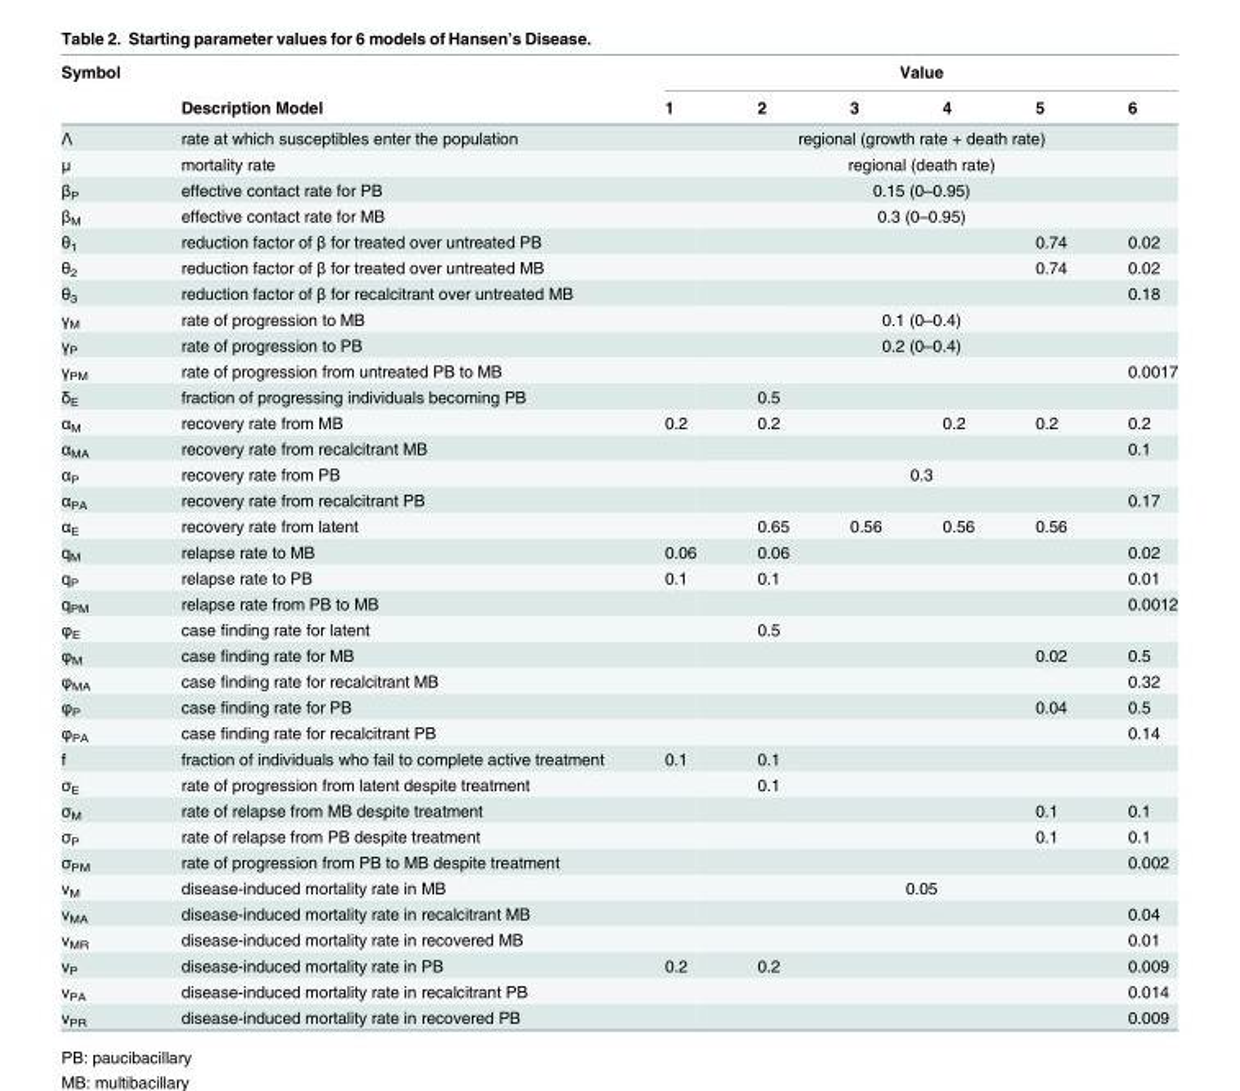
<table><thead><tr><td rowspan="2">Symbol</td><td rowspan="2">Description Model</td><td colspan="6">Value</td></tr><tr><td>1</td><td>2</td><td>3</td><td>4</td><td>5</td><td>6</td></tr></thead><tbody><tr><td>Λ</td><td>rate at which susceptibles enter the population</td><td colspan="6">regional (growth rate + death rate)</td></tr><tr><td>μ</td><td>mortality rate</td><td colspan="6">regional (death rate)</td></tr><tr><td>β<sub>P</sub></td><td>effective contact rate for PB</td><td colspan="6">0.15 (0–0.95)</td></tr><tr><td>β<sub>M</sub></td><td>effective contact rate for MB</td><td colspan="6">0.3 (0–0.95)</td></tr><tr><td>θ<sub>1</sub></td><td>reduction factor of β for treated over untreated PB</td><td></td><td></td><td></td><td></td><td>0.74</td><td>0.02</td></tr><tr><td>θ<sub>2</sub></td><td>reduction factor of β for treated over untreated MB</td><td></td><td></td><td></td><td></td><td>0.74</td><td>0.02</td></tr><tr><td>θ<sub>3</sub></td><td>reduction factor of β for recalcitrant over untreated MB</td><td></td><td></td><td></td><td></td><td></td><td>0.18</td></tr><tr><td>γ<sub>M</sub></td><td>rate of progression to MB</td><td colspan="6">0.1 (0–0.4)</td></tr><tr><td>γ<sub>P</sub></td><td>rate of progression to PB</td><td colspan="6">0.2 (0–0.4)</td></tr><tr><td>γ<sub>PM</sub></td><td>rate of progression from untreated PB to MB</td><td></td><td></td><td></td><td></td><td></td><td>0.0017</td></tr><tr><td>δ<sub>E</sub></td><td>fraction of progressing individuals becoming PB</td><td></td><td>0.5</td><td></td><td></td><td></td><td></td></tr><tr><td>α<sub>M</sub></td><td>recovery rate from MB</td><td>0.2</td><td>0.2</td><td></td><td>0.2</td><td>0.2</td><td>0.2</td></tr><tr><td>α<sub>MA</sub></td><td>recovery rate from recalcitrant MB</td><td></td><td></td><td></td><td></td><td></td><td>0.1</td></tr><tr><td>α<sub>P</sub></td><td>recovery rate from PB</td><td colspan="6">0.3</td></tr><tr><td>α<sub>PA</sub></td><td>recovery rate from recalcitrant PB</td><td></td><td></td><td></td><td></td><td></td><td>0.17</td></tr><tr><td>α<sub>E</sub></td><td>recovery rate from latent</td><td></td><td>0.65</td><td>0.56</td><td>0.56</td><td>0.56</td><td></td></tr><tr><td>q<sub>M</sub></td><td>relapse rate to MB</td><td>0.06</td><td>0.06</td><td></td><td></td><td></td><td>0.02</td></tr><tr><td>q<sub>P</sub></td><td>relapse rate to PB</td><td>0.1</td><td>0.1</td><td></td><td></td><td></td><td>0.01</td></tr><tr><td>q<sub>PM</sub></td><td>relapse rate from PB to MB</td><td></td><td></td><td></td><td></td><td></td><td>0.0012</td></tr><tr><td>φ<sub>E</sub></td><td>case finding rate for latent</td><td></td><td>0.5</td><td></td><td></td><td></td><td></td></tr><tr><td>φ<sub>M</sub></td><td>case finding rate for MB</td><td></td><td></td><td></td><td></td><td>0.02</td><td>0.5</td></tr><tr><td>φ<sub>MA</sub></td><td>case finding rate for recalcitrant MB</td><td></td><td></td><td></td><td></td><td></td><td>0.32</td></tr><tr><td>φ<sub>P</sub></td><td>case finding rate for PB</td><td></td><td></td><td></td><td></td><td>0.04</td><td>0.5</td></tr><tr><td>φ<sub>PA</sub></td><td>case finding rate for recalcitrant PB</td><td></td><td></td><td></td><td></td><td></td><td>0.14</td></tr><tr><td>f</td><td>fraction of individuals who fail to complete active treatment</td><td>0.1</td><td>0.1</td><td></td><td></td><td></td><td></td></tr><tr><td>σ<sub>E</sub></td><td>rate of progression from latent despite treatment</td><td></td><td>0.1</td><td></td><td></td><td></td><td></td></tr><tr><td>σ<sub>M</sub></td><td>rate of relapse from MB despite treatment</td><td></td><td></td><td></td><td></td><td>0.1</td><td>0.1</td></tr><tr><td>σ<sub>P</sub></td><td>rate of relapse from PB despite treatment</td><td></td><td></td><td></td><td></td><td>0.1</td><td>0.1</td></tr><tr><td>σ<sub>PM</sub></td><td>rate of progression from PB to MB despite treatment</td><td></td><td></td><td></td><td></td><td></td><td>0.002</td></tr><tr><td>v<sub>M</sub></td><td>disease-induced mortality rate in MB</td><td colspan="6">0.05</td></tr><tr><td>ν<sub>MA</sub></td><td>disease-induced mortality rate in recalcitrant MB</td><td></td><td></td><td></td><td></td><td></td><td>0.04</td></tr><tr><td>ν<sub>MR</sub></td><td>disease-induced mortality rate in recovered MB</td><td></td><td></td><td></td><td></td><td></td><td>0.01</td></tr><tr><td>v<sub>P</sub></td><td>disease-induced mortality rate in PB</td><td>0.2</td><td>0.2</td><td></td><td></td><td></td><td>0.009</td></tr><tr><td>ν<sub>PA</sub></td><td>disease-induced mortality rate in recalcitrant PB</td><td></td><td></td><td></td><td></td><td></td><td>0.014</td></tr><tr><td>ν<sub>PR</sub></td><td>disease-induced mortality rate in recovered PB</td><td></td><td></td><td></td><td></td><td></td><td>0.009</td></tr></tbody></table>